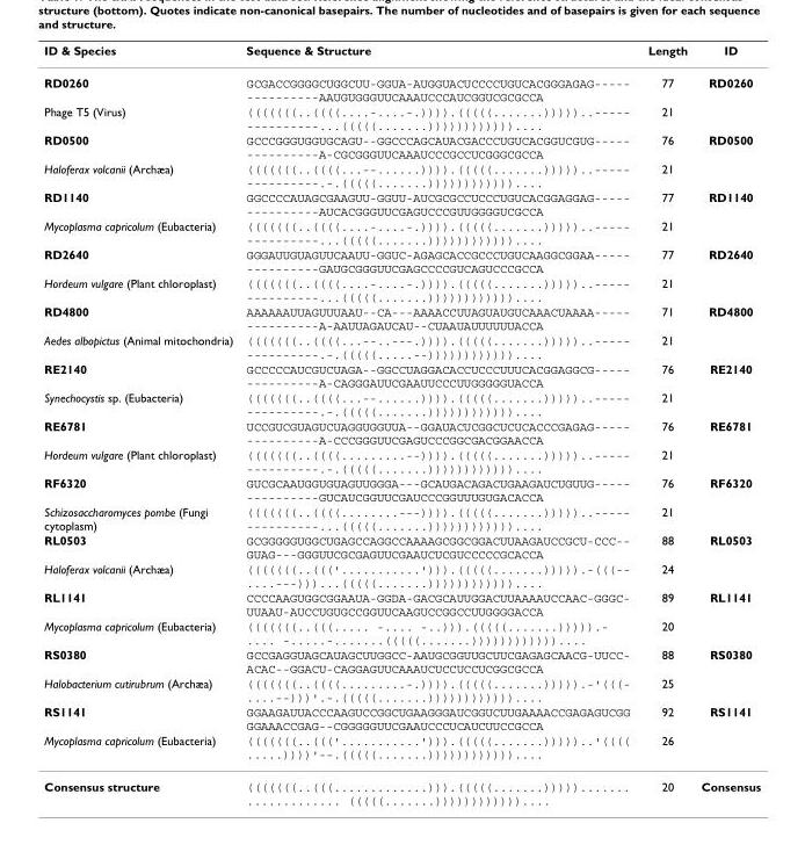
<table><thead><tr><td>ID &amp; Species</td><td>Sequence &amp; Structure</td><td>Length</td><td>ID</td></tr></thead><tbody><tr><td>RD0260</td><td>GCGACCGGGGCUGGCUU-GGUA-AUGGUACUCCCCUGUCACGGGAGAG----- ----------AAUGUGGGUUCAAAUCCCAUCGGUCGCGCCA</td><td>77</td><td>RD0260</td></tr><tr><td>Phage T5 (Virus)</td><td>(((((((..((((....-....-.)))).(((((.......)))))..----- ----------...(((((.......))))))))))))....</td><td>21</td><td></td></tr><tr><td>RD0500</td><td>GCCCGGGUGGUGCAGU--GGCCCAGCAUACGACCCUGUCACGGUCGUG----- ----------A-CGCGGGUUCAAAUCCCGCCUCGGGCGCCA</td><td>76</td><td>RD0500</td></tr><tr><td>Haloferax volcanii (Archæa)</td><td>(((((((..((((...--......)))).(((((.......)))))..----- ----------.-.(((((.......))))))))))))....</td><td>21</td><td></td></tr><tr><td>RD1140</td><td>GGCCCCAUAGCGAAGUU-GGUU-AUCGCGCCUCCCUGUCACGGAGGAG----- ----------AUCACGGGUUCGAGUCCCGUUGGGGUCGCCA</td><td>77</td><td>RD1140</td></tr><tr><td>Mycoplasma capricolum (Eubacteria)</td><td>(((((((..((((....-....-.)))).(((((.......)))))..----- ----------...(((((.......))))))))))))....</td><td>21</td><td></td></tr><tr><td>RD2640</td><td>GGGAUUGUAGUUCAAUU-GGUC-AGAGCACCGCCCUGUCAAGGCGGAA----- ----------GAUGCGGGUUCGAGCCCCGUCAGUCCCGCCA</td><td>77</td><td>RD2640</td></tr><tr><td>Hordeum vulgare (Plant chloroplast)</td><td>(((((((..((((....-....-.)))).(((((.......)))))..----- ----------...(((((.......))))))))))))....</td><td>21</td><td></td></tr><tr><td>RD4800</td><td>AAAAAAUUAGUUUAAU--CA---AAAACCUUAGUAUGUCAAACUAAAA----- ----------A-AAUUAGAUCAU--CUAAUAUUUUUUACCA</td><td>71</td><td>RD4800</td></tr><tr><td>Aedes albopictus (Animal mitochondria)</td><td>(((((((..((((...--..---.)))).(((((.......)))))..----- ----------.-.(((((.....--))))))))))))....</td><td>21</td><td></td></tr><tr><td>RE2140</td><td>GCCCCCAUCGUCUAGA--GGCCUAGGACACCUCCCUUUCACGGAGGCG----- ----------A-CAGGGAUUCGAAUUCCCUUGGGGGUACCA</td><td>76</td><td>RE2140</td></tr><tr><td>Synechocystis sp. (Eubacteria)</td><td>(((((((..((((...--......)))).(((((.......)))))..----- ----------.-.(((((.......))))))))))))....</td><td>21</td><td></td></tr><tr><td>RE6781</td><td>UCCGUCGUAGUCUAGGUGGUUA--GGAUACUCGGCUCUCACCCGAGAG----- ----------A-CCCGGGUUCGAGUCCCGGCGACGGAACCA</td><td>76</td><td>RE6781</td></tr><tr><td>Hordeum vulgare (Plant chloroplast)</td><td>(((((((..((((.........--)))).(((((.......)))))..----- ----------.-.(((((.......))))))))))))....</td><td>21</td><td></td></tr><tr><td>RF6320</td><td>GUCGCAAUGGUGUAGUUGGGA---GCAUGACAGACUGAAGAUCUGUUG----- ----------GUCAUCGGUUCGAUCCCGGUUUGUGACACCA</td><td>76</td><td>RF6320</td></tr><tr><td>Schizosaccharomyces pombe (Fungi cytoplasm)</td><td>(((((((..((((........---)))).(((((.......)))))..----- ----------...(((((.......))))))))))))....</td><td>21</td><td></td></tr><tr><td>RL0503</td><td>GCGGGGGUGGCUGAGCCAGGCCAAAAGCGGCGGACUUAAGAUCCGCU-CCC-- GUAG---GGGUUCGCGAGUUCGAAUCUCGUCCCCCGCACCA</td><td>88</td><td>RL0503</td></tr><tr><td>Haloferax volcanii (Archæa)</td><td>(((((((..(((&#x27;...........&#x27;))).(((((.......))))).-(((-- ....---)))...(((((.......))))))))))))....</td><td>24</td><td></td></tr><tr><td>RL1141</td><td>CCCCAAGUGGCGGAAUA-GGDA-GACGCAUUGGACUUAAAAUCCAAC-GGGC- UUAAU-AUCCUGUGCCGGUUCAAGUCCGGCCUUGGGGACCA</td><td>89</td><td>RL1141</td></tr><tr><td>Mycoplasma capricolum (Eubacteria)</td><td>(((((((..(((..... -.... -..))).(((((.......))))).- .... -.....-.......(((((.......))))))))))))....</td><td>20</td><td></td></tr><tr><td>RS0380</td><td>GCCGAGGUAGCAUAGCUUGGCC-AAUGCGGUUGCUUCGAGAGCAACG-UUCC- ACAC--GGACU-CAGGAGUUCAAAUCUCCUCCUCGGCGCCA</td><td>88</td><td>RS0380</td></tr><tr><td>Halobacterium cutirubrum (Archæa)</td><td>(((((((..((((.........-.)))).(((((.......))))).-&#x27;(((- ....--)))&#x27;.-.(((((.......))))))))))))....</td><td>25</td><td></td></tr><tr><td>RS1141</td><td>GGAAGAUUACCCAAGUCCGGCUGAAGGGAUCGGUCUUGAAAACCGAGAGUCGG GGAAACCGAG--CGGGGGUUCGAAUCCCUCAUCUUCCGCCA</td><td>92</td><td>RS1141</td></tr><tr><td>Mycoplasma capricolum (Eubacteria)</td><td>(((((((..(((&#x27;...........&#x27;))).(((((.......)))))..&#x27;(((( .....))))&#x27;--.(((((.......))))))))))))....</td><td>26</td><td></td></tr><tr><td>Consensus structure</td><td>(((((((..(((.............))).(((((.......)))))....... ............. (((((.......))))))))))))....</td><td>20</td><td>Consensus</td></tr></tbody></table>